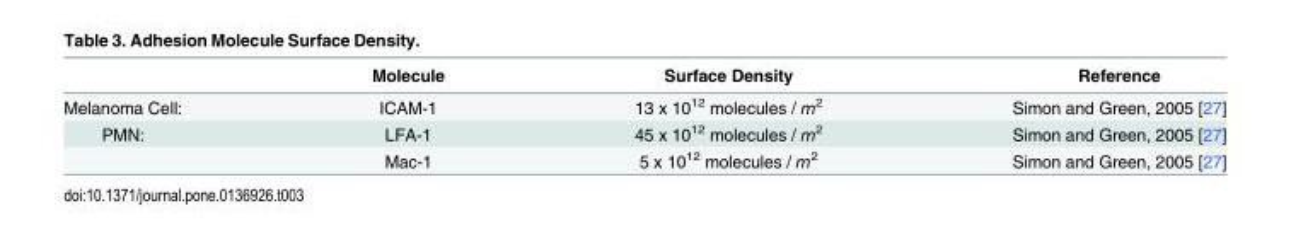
<table><thead><tr><td></td><td>Molecule</td><td>Surface Density</td><td>Reference</td></tr></thead><tbody><tr><td>Melanoma Cell:</td><td>ICAM-1</td><td>13 x 10<sup>12</sup> molecules / m<sup>2</sup></td><td>Simon and Green, 2005 [27]</td></tr><tr><td rowspan="2">PMN:</td><td>LFA-1</td><td>45 x 10<sup>12</sup> molecules / m<sup>2</sup></td><td>Simon and Green, 2005 [27]</td></tr><tr><td>Mac-1</td><td>5 x 10<sup>12</sup> molecules / m<sup>2</sup></td><td>Simon and Green, 2005 [27]</td></tr></tbody></table>